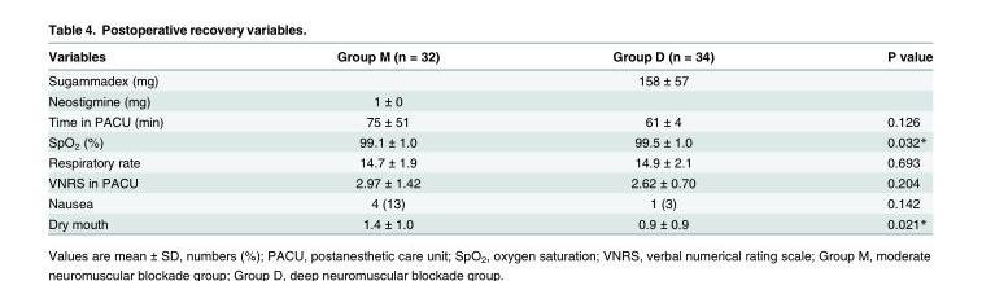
<table><thead><tr><td>Variables</td><td>Group M (n = 32)</td><td>Group D (n = 34)</td><td>P value</td></tr></thead><tbody><tr><td>Sugammadex (mg)</td><td></td><td>158 ± 57</td><td></td></tr><tr><td>Neostigmine (mg)</td><td>1 ± 0</td><td></td><td></td></tr><tr><td>Time in PACU (min)</td><td>75 ± 51</td><td>61 ± 4</td><td>0.126</td></tr><tr><td>SpO<sub>2</sub> (%)</td><td>99.1 ± 1.0</td><td>99.5 ± 1.0</td><td>0.032*</td></tr><tr><td>Respiratory rate</td><td>14.7 ± 1.9</td><td>14.9 ± 2.1</td><td>0.693</td></tr><tr><td>VNRS in PACU</td><td>2.97 ± 1.42</td><td>2.62 ± 0.70</td><td>0.204</td></tr><tr><td>Nausea</td><td>4 (13)</td><td>1 (3)</td><td>0.142</td></tr><tr><td>Dry mouth</td><td>1.4 ± 1.0</td><td>0.9 ± 0.9</td><td>0.021*</td></tr></tbody></table>